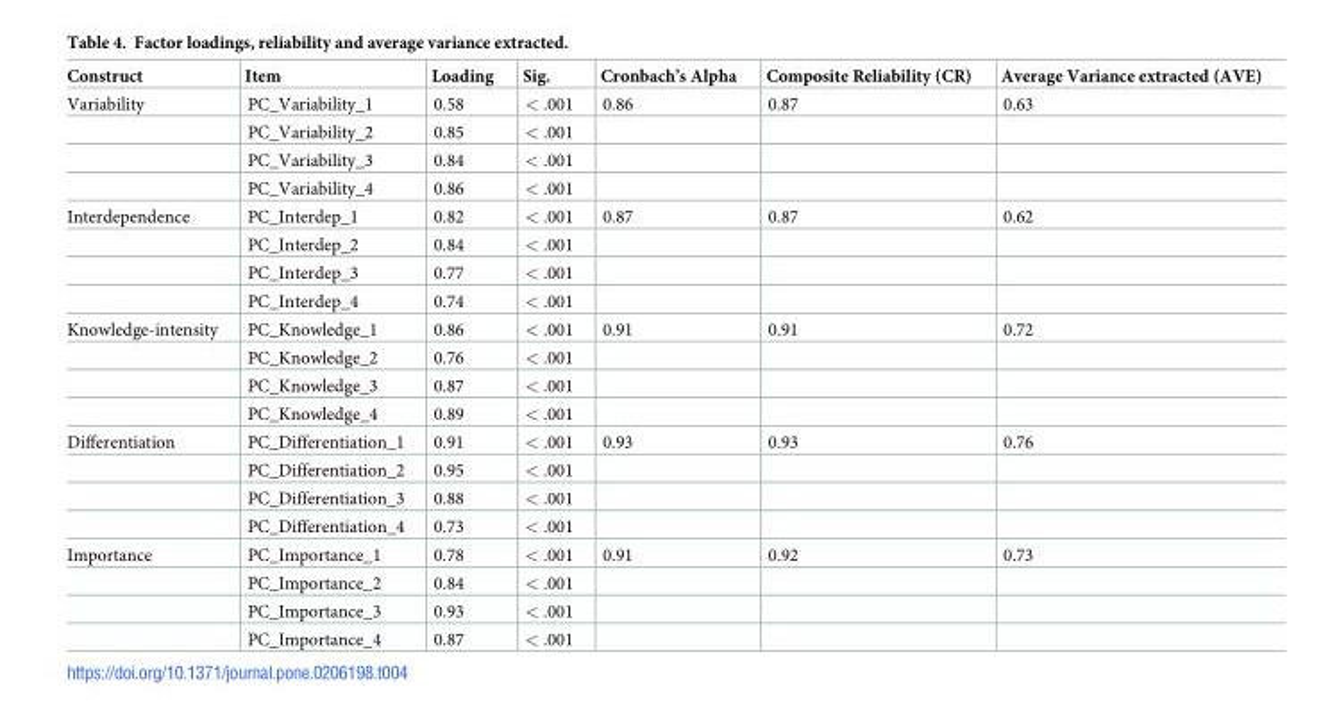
<table><thead><tr><td>Construct</td><td>Item</td><td>Loading</td><td>Sig.</td><td>Cronbach’s Alpha</td><td>Composite Reliability (CR)</td><td>Average Variance extracted (AVE)</td></tr></thead><tbody><tr><td rowspan="4">Variability</td><td>PC_Variability_1</td><td>0.58</td><td>&lt; .001</td><td>0.86</td><td>0.87</td><td>0.63</td></tr><tr><td>PC_Variability_2</td><td>0.85</td><td>&lt; .001</td><td></td><td></td><td></td></tr><tr><td>PC_Variability_3</td><td>0.84</td><td>&lt; .001</td><td></td><td></td><td></td></tr><tr><td>PC_Variability_4</td><td>0.86</td><td>&lt; .001</td><td></td><td></td><td></td></tr><tr><td rowspan="4">Interdependence</td><td>PC_Interdep_1</td><td>0.82</td><td>&lt; .001</td><td>0.87</td><td>0.87</td><td>0.62</td></tr><tr><td>PC_Interdep_2</td><td>0.84</td><td>&lt; .001</td><td></td><td></td><td></td></tr><tr><td>PC_Interdep_3</td><td>0.77</td><td>&lt; .001</td><td></td><td></td><td></td></tr><tr><td>PC_Interdep_4</td><td>0.74</td><td>&lt; .001</td><td></td><td></td><td></td></tr><tr><td rowspan="4">Knowledge-intensity</td><td>PC_Knowledge_1</td><td>0.86</td><td>&lt; .001</td><td>0.91</td><td>0.91</td><td>0.72</td></tr><tr><td>PC_Knowledge_2</td><td>0.76</td><td>&lt; .001</td><td></td><td></td><td></td></tr><tr><td>PC_Knowledge_3</td><td>0.87</td><td>&lt; .001</td><td></td><td></td><td></td></tr><tr><td>PC_Knowledge_4</td><td>0.89</td><td>&lt; .001</td><td></td><td></td><td></td></tr><tr><td rowspan="4">Differentiation</td><td>PC_Differentiation_1</td><td>0.91</td><td>&lt; .001</td><td>0.93</td><td>0.93</td><td>0.76</td></tr><tr><td>PC_Differentiation_2</td><td>0.95</td><td>&lt; .001</td><td></td><td></td><td></td></tr><tr><td>PC_Differentiation_3</td><td>0.88</td><td>&lt; .001</td><td></td><td></td><td></td></tr><tr><td>PC_Differentiation_4</td><td>0.73</td><td>&lt; .001</td><td></td><td></td><td></td></tr><tr><td rowspan="4">Importance</td><td>PC_Importance_1</td><td>0.78</td><td>&lt; .001</td><td>0.91</td><td>0.92</td><td>0.73</td></tr><tr><td>PC_Importance_2</td><td>0.84</td><td>&lt; .001</td><td></td><td></td><td></td></tr><tr><td>PC_Importance_3</td><td>0.93</td><td>&lt; .001</td><td></td><td></td><td></td></tr><tr><td>PC_Importance_4</td><td>0.87</td><td>&lt; .001</td><td></td><td></td><td></td></tr></tbody></table>